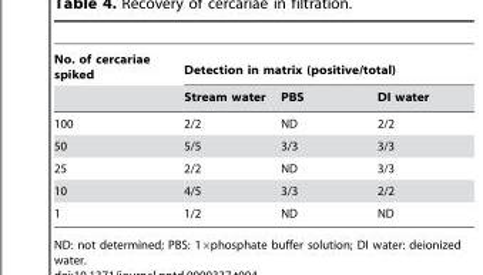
<table><thead><tr><td rowspan="2">No. of cercariae spiked</td><td colspan="3">Detection in matrix (positive/total)</td></tr><tr><td>Stream water</td><td>PBS</td><td>DI water</td></tr></thead><tbody><tr><td>100</td><td>2/2</td><td>ND</td><td>2/2</td></tr><tr><td>50</td><td>5/5</td><td>3/3</td><td>3/3</td></tr><tr><td>25</td><td>2/2</td><td>ND</td><td>3/3</td></tr><tr><td>10</td><td>4/5</td><td>3/3</td><td>2/2</td></tr><tr><td>1</td><td>1/2</td><td>ND</td><td>ND</td></tr></tbody></table>